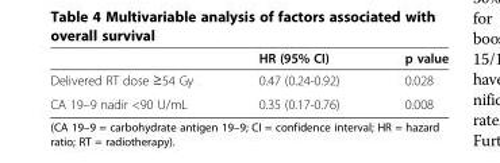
<table><thead><tr><td></td><td>HR (95% CI)</td><td>p value</td></tr></thead><tbody><tr><td>Delivered RT dose ≥54 Gy</td><td>0.47 (0.24-0.92)</td><td>0.028</td></tr><tr><td>CA 19–9 nadir &lt;90 U/mL</td><td>0.35 (0.17-0.76)</td><td>0.008</td></tr></tbody></table>